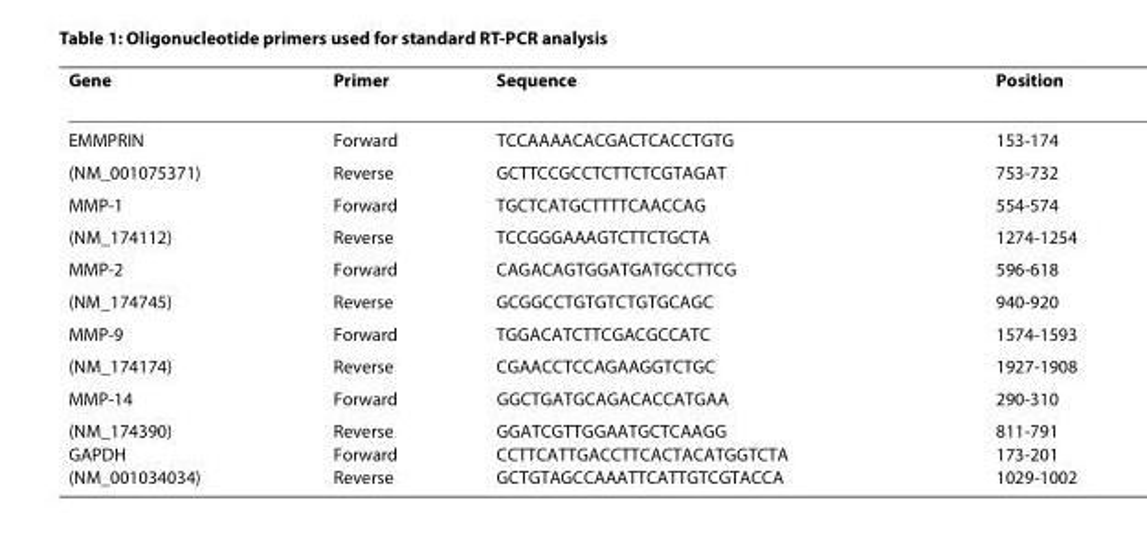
<table><thead><tr><td>Gene</td><td>Primer</td><td>Sequence</td><td>Position</td></tr></thead><tbody><tr><td>EMMPRIN</td><td>Forward</td><td>TCCAAAACACGACTCACCTGTG</td><td>153-174</td></tr><tr><td>(NM_001075371)</td><td>Reverse</td><td>GCTTCCGCCTCTTCTCGTAGAT</td><td>753-732</td></tr><tr><td>MMP-1</td><td>Forward</td><td>TGCTCATGCTTTTCAACCAG</td><td>554-574</td></tr><tr><td>(NM_174112)</td><td>Reverse</td><td>TCCGGGAAAGTCTTCTGCTA</td><td>1274-1254</td></tr><tr><td>MMP-2</td><td>Forward</td><td>CAGACAGTGGATGATGCCTTCG</td><td>596-618</td></tr><tr><td>(NM_174745)</td><td>Reverse</td><td>GCGGCCTGTGTCTGTGCAGC</td><td>940-920</td></tr><tr><td>MMP-9</td><td>Forward</td><td>TGGACATCTTCGACGCCATC</td><td>1574-1593</td></tr><tr><td>(NM_174174)</td><td>Reverse</td><td>CGAACCTCCAGAAGGTCTGC</td><td>1927-1908</td></tr><tr><td>MMP-14</td><td>Forward</td><td>GGCTGATGCAGACACCATGAA</td><td>290-310</td></tr><tr><td>(NM_174390) GAPDH (NM_001034034)</td><td>Reverse Forward Reverse</td><td>GGATCGTTGGAATGCTCAAGG CCTTCATTGACCTTCACTACATGGTCTA GCTGTAGCCAAATTCATTGTCGTACCA</td><td>811-791 173-201 1029-1002</td></tr></tbody></table>